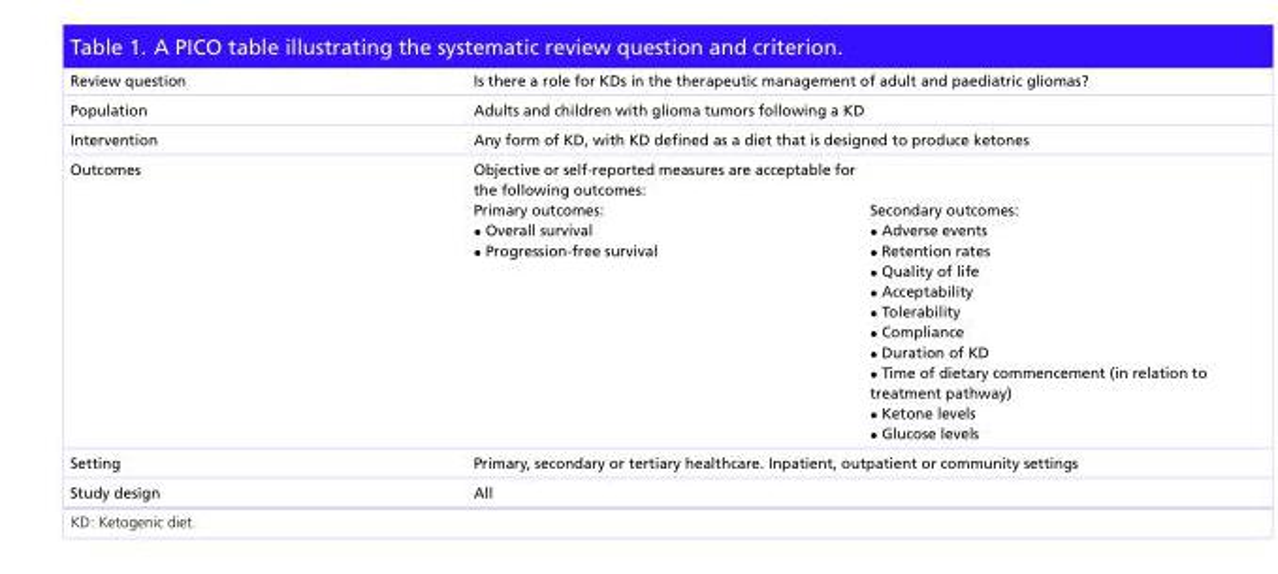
<table><tbody><tr><td>Review question</td><td colspan="2">Is there a role for KDs in the therapeutic management of adult and paediatric gliomas?</td></tr><tr><td>Population</td><td colspan="2">Adults and children with glioma tumors following a KD</td></tr><tr><td>Intervention</td><td colspan="2">Any form of KD, with KD defined as a diet that is designed to produce ketones</td></tr><tr><td>Outcomes</td><td>Objective or self-reported measures are acceptable for the following outcomes: Primary outcomes: • Overall survival • Progression-free survival</td><td>Secondary outcomes: • Adverse events • Retention rates • Quality of life • Acceptability • Tolerability • Compliance • Duration of KD • Time of dietary commencement (in relation to treatment pathway) • Ketone levels • Glucose levels</td></tr><tr><td>Setting</td><td colspan="2">Primary, secondary or tertiary healthcare. Inpatient, outpatient or community settings</td></tr><tr><td>Study design</td><td colspan="2">All</td></tr></tbody></table>